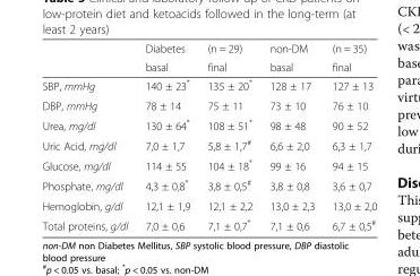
<table><thead><tr><td rowspan="2"></td><td rowspan="2">Diabetes basal</td><td rowspan="2">(n = 29) final</td><td rowspan="2">non-DM basal</td><td rowspan="2">(n = 35) final</td></tr><tr></tr></thead><tbody><tr><td>SBP, mmHg</td><td>140 ± 23*</td><td>135 ± 20*</td><td>128 ± 17</td><td>127 ± 13</td></tr><tr><td>DBP, mmHg</td><td>78 ± 14</td><td>75 ± 11</td><td>73 ± 10</td><td>76 ± 10</td></tr><tr><td>Urea, mg/dl</td><td>130 ± 64*</td><td>108 ± 51*</td><td>98 ± 48</td><td>90 ± 52</td></tr><tr><td>Uric Acid, mg/dl</td><td>7,0 ± 1,7</td><td>5,8 ± 1,7<sup>#</sup></td><td>6,6 ± 2,0</td><td>6,3 ± 1,7</td></tr><tr><td>Glucose, mg/dl</td><td>114 ± 55</td><td>104 ± 18*</td><td>99 ± 16</td><td>94 ± 15</td></tr><tr><td>Phosphate, mg/dl</td><td>4,3 ± 0,8*</td><td>3,8 ± 0,5<sup>#</sup></td><td>3,8 ± 0,8</td><td>3,6 ± 0,7</td></tr><tr><td>Hemoglobin, g/dl</td><td>12,1 ± 1,9</td><td>12,1 ± 2,2</td><td>13,0 ± 2,3</td><td>13,0 ± 2,0</td></tr><tr><td>Total proteins, g/dl</td><td>7,0 ± 0,6</td><td>7,1 ± 0,7*</td><td>7,1 ± 0,6</td><td>6,7 ± 0,5<sup>#</sup></td></tr></tbody></table>